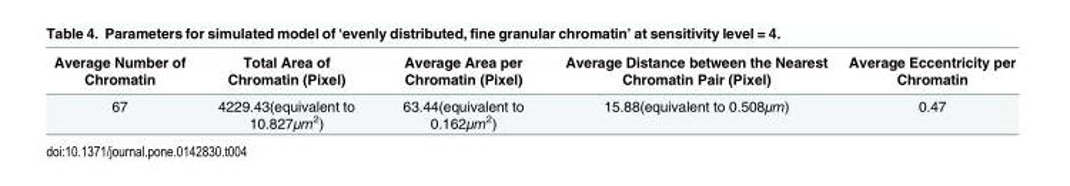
<table><thead><tr><td>Average Number of Chromatin</td><td>Total Area of Chromatin (Pixel)</td><td>Average Area per Chromatin (Pixel)</td><td>Average Distance between the Nearest Chromatin Pair (Pixel)</td><td>Average Eccentricity per Chromatin</td></tr></thead><tbody><tr><td>67</td><td>4229.43(equivalent to 10.827μm<sup>2</sup>)</td><td>63.44(equivalent to 0.162μm<sup>2</sup>)</td><td>15.88(equivalent to 0.508μm)</td><td>0.47</td></tr></tbody></table>